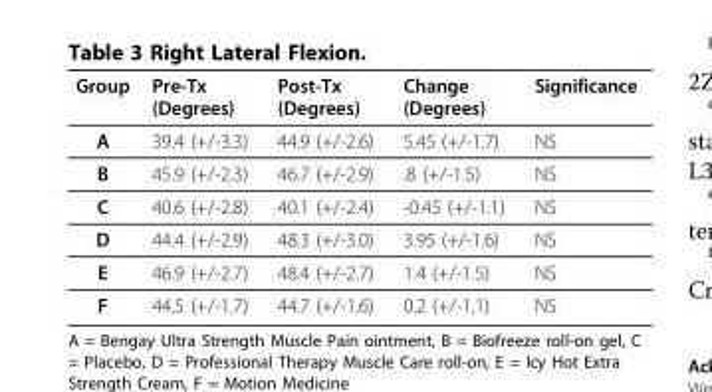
<table><thead><tr><td>Group</td><td>Pre-Tx (Degrees)</td><td>Post-Tx (Degrees)</td><td>Change (Degrees)</td><td>Significance</td></tr></thead><tbody><tr><td>A</td><td>39.4 (+/-3.3)</td><td>44.9 (+/-2.6)</td><td>5.45 (+/-1.7)</td><td>NS</td></tr><tr><td>B</td><td>45.9 (+/-2.3)</td><td>46.7 (+/-2.9)</td><td>.8 (+/-1.5)</td><td>NS</td></tr><tr><td>C</td><td>40.6 (+/-2.8)</td><td>40.1 (+/-2.4)</td><td>-0.45 (+/-1.1)</td><td>NS</td></tr><tr><td>D</td><td>44.4 (+/-2.9)</td><td>48.3 (+/-3.0)</td><td>3.95 (+/-1.6)</td><td>NS</td></tr><tr><td>E</td><td>46.9 (+/-2.7)</td><td>48.4 (+/-2.7)</td><td>1.4 (+/-1.5)</td><td>NS</td></tr><tr><td>F</td><td>44.5 (+/-1.7)</td><td>44.7 (+/-1.6)</td><td>0.2 (+/-1.1)</td><td>NS</td></tr></tbody></table>